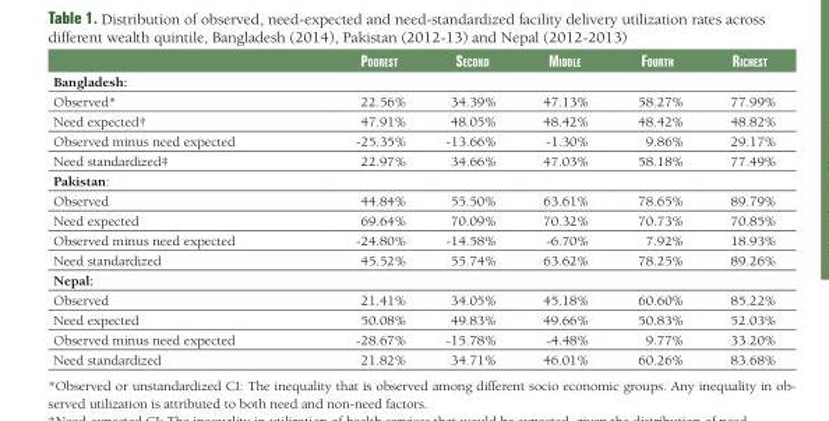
<table><thead><tr><td></td><td>Poorest</td><td>second</td><td>Middle</td><td>Fourth</td><td>richest</td></tr></thead><tbody><tr><td colspan="6">Bangladesh:</td></tr><tr><td>Observed*</td><td>22.56%</td><td>34.39%</td><td>47.13%</td><td>58.27%</td><td>77.99%</td></tr><tr><td>Need expected†</td><td>47.91%</td><td>48.05%</td><td>48.42%</td><td>48.42%</td><td>48.82%</td></tr><tr><td>Observed minus need expected</td><td>-25.35%</td><td>-13.66%</td><td>-1.30%</td><td>9.86%</td><td>29.17%</td></tr><tr><td>Need standardized‡</td><td>22.97%</td><td>34.66%</td><td>47.03%</td><td>58.18%</td><td>77.49%</td></tr><tr><td colspan="6">Pakistan:</td></tr><tr><td>Observed</td><td>44.84%</td><td>55.50%</td><td>63.61%</td><td>78.65%</td><td>89.79%</td></tr><tr><td>Need expected</td><td>69.64%</td><td>70.09%</td><td>70.32%</td><td>70.73%</td><td>70.85%</td></tr><tr><td>Observed minus need expected</td><td>-24.80%</td><td>-14.58%</td><td>-6.70%</td><td>7.92%</td><td>18.93%</td></tr><tr><td>Need standardized</td><td>45.52%</td><td>55.74%</td><td>63.62%</td><td>78.25%</td><td>89.26%</td></tr><tr><td colspan="6">Nepal:</td></tr><tr><td>Observed</td><td>21.41%</td><td>34.05%</td><td>45.18%</td><td>60.60%</td><td>85.22%</td></tr><tr><td>Need expected</td><td>50.08%</td><td>49.83%</td><td>49.66%</td><td>50.83%</td><td>52.03%</td></tr><tr><td>Observed minus need expected</td><td>-28.67%</td><td>-15.78%</td><td>-4.48%</td><td>9.77%</td><td>33.20%</td></tr><tr><td>Need standardized</td><td>21.82%</td><td>34.71%</td><td>46.01%</td><td>60.26%</td><td>83.68%</td></tr></tbody></table>